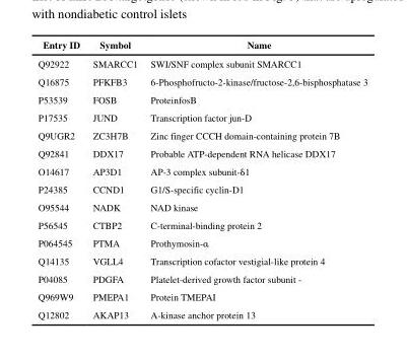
<table><thead><tr><td>Entry ID</td><td>Symbol</td><td>Name</td></tr></thead><tbody><tr><td>Q92922</td><td>SMARCC1</td><td>SWI/SNF complex subunit SMARCC1</td></tr><tr><td>Q16875</td><td>PFKFB3</td><td>6-Phosphofructo-2-kinase/fructose-2,6-bisphosphatase 3</td></tr><tr><td>P53539</td><td>FOSB</td><td>ProteinfosB</td></tr><tr><td>P17535</td><td>JUND</td><td>Transcription factor jun-D</td></tr><tr><td>Q9UGR2</td><td>ZC3H7B</td><td>Zinc finger CCCH domain-containing protein 7B</td></tr><tr><td>Q92841</td><td>DDX17</td><td>Probable ATP-dependent RNA helicase DDX17</td></tr><tr><td>O14617</td><td>AP3D1</td><td>AP-3 complex subunit-δ1</td></tr><tr><td>P24385</td><td>CCND1</td><td>G1/S-specific cyclin-D1</td></tr><tr><td>O95544</td><td>NADK</td><td>NAD kinase</td></tr><tr><td>P56545</td><td>CTBP2</td><td>C-terminal-binding protein 2</td></tr><tr><td>P064545</td><td>PTMA</td><td>Prothymosin-α</td></tr><tr><td>Q14135</td><td>VGLL4</td><td>Transcription cofactor vestigial-like protein 4</td></tr><tr><td>P04085</td><td>PDGFA</td><td>Platelet-derived growth factor subunit -</td></tr><tr><td>Q969W9</td><td>PMEPA1</td><td>Protein TMEPAI</td></tr><tr><td>Q12802</td><td>AKAP13</td><td>A-kinase anchor protein 13</td></tr></tbody></table>